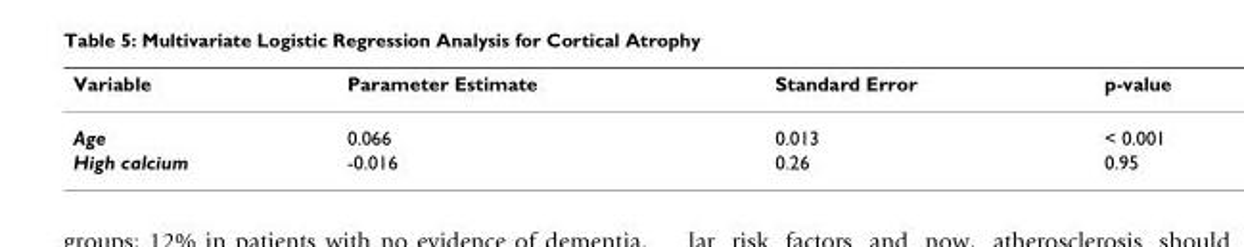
<table><thead><tr><td>Variable</td><td>Parameter Estimate</td><td>Standard Error</td><td>p-value</td></tr></thead><tbody><tr><td>Age</td><td>0.066</td><td>0.013</td><td>&lt; 0.001</td></tr><tr><td>High calcium</td><td>-0.016</td><td>0.26</td><td>0.95</td></tr></tbody></table>